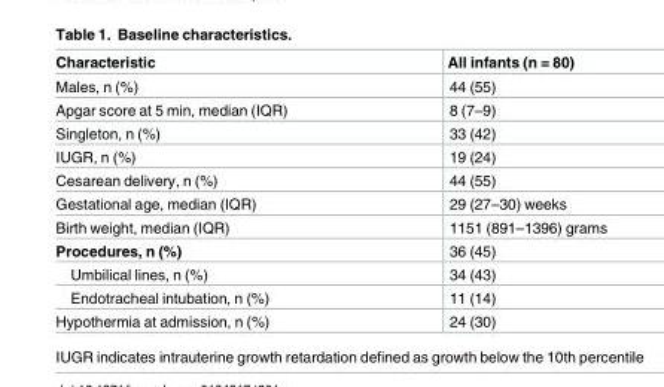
<table><thead><tr><td>Characteristic</td><td>All infants (n = 80)</td></tr></thead><tbody><tr><td>Males, n (%)</td><td>44 (55)</td></tr><tr><td>Apgar score at 5 min, median (IQR)</td><td>8 (7–9)</td></tr><tr><td>Singleton, n (%)</td><td>33 (42)</td></tr><tr><td>IUGR, n (%)</td><td>19 (24)</td></tr><tr><td>Cesarean delivery, n (%)</td><td>44 (55)</td></tr><tr><td>Gestational age, median (IQR)</td><td>29 (27–30) weeks</td></tr><tr><td>Birth weight, median (IQR)</td><td>1151 (891–1396) grams</td></tr><tr><td>Procedures, n (%)</td><td>36 (45)</td></tr><tr><td>Umbilical lines, n (%)</td><td>34 (43)</td></tr><tr><td>Endotracheal intubation, n (%)</td><td>11 (14)</td></tr><tr><td>Hypothermia at admission, n (%)</td><td>24 (30)</td></tr></tbody></table>